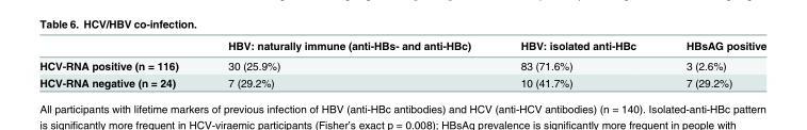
<table><thead><tr><td></td><td>HBV: naturally immune (anti-HBs- and anti-HBc)</td><td>HBV: isolated anti-HBc</td><td>HBsAG positive</td></tr></thead><tbody><tr><td>HCV-RNA positive (n = 116)</td><td>30 (25.9%)</td><td>83 (71.6%)</td><td>3 (2.6%)</td></tr><tr><td>HCV-RNA negative (n = 24)</td><td>7 (29.2%)</td><td>10 (41.7%)</td><td>7 (29.2%)</td></tr></tbody></table>